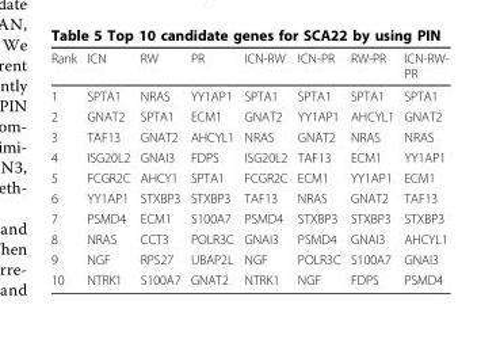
<table><thead><tr><td>Rank</td><td>ICN</td><td>RW</td><td>PR</td><td>ICN-RW</td><td>ICN-PR</td><td>RW-PR</td><td>ICN-RW- PR</td></tr></thead><tbody><tr><td>1</td><td>SPTA1</td><td>NRAS</td><td>YY1AP1</td><td>SPTA1</td><td>SPTA1</td><td>SPTA1</td><td>SPTA1</td></tr><tr><td>2</td><td>GNAT2</td><td>SPTA1</td><td>ECM1</td><td>GNAT2</td><td>YY1AP1</td><td>AHCYL1</td><td>GNAT2</td></tr><tr><td>3</td><td>TAF13</td><td>GNAT2</td><td>AHCYL1</td><td>NRAS</td><td>GNAT2</td><td>NRAS</td><td>NRAS</td></tr><tr><td>4</td><td>ISG20L2</td><td>GNAI3</td><td>FDPS</td><td>ISG20L2</td><td>TAF13</td><td>ECM1</td><td>YY1AP1</td></tr><tr><td>5</td><td>FCGR2C</td><td>AHCY1</td><td>SPTA1</td><td>FCGR2C</td><td>ECM1</td><td>YY1AP1</td><td>ECM1</td></tr><tr><td>6</td><td>YY1AP1</td><td>STXBP3</td><td>STXBP3</td><td>TAF13</td><td>NRAS</td><td>GNAT2</td><td>TAF13</td></tr><tr><td>7</td><td>PSMD4</td><td>ECM1</td><td>S100A7</td><td>PSMD4</td><td>STXBP3</td><td>STXBP3</td><td>STXBP3</td></tr><tr><td>8</td><td>NRAS</td><td>CCT3</td><td>POLR3C</td><td>GNAI3</td><td>PSMD4</td><td>GNAI3</td><td>AHCYL1</td></tr><tr><td>9</td><td>NGF</td><td>RPS27</td><td>UBAP2L</td><td>NGF</td><td>POLR3C</td><td>S100A7</td><td>GNAI3</td></tr><tr><td>10</td><td>NTRK1</td><td>S100A7</td><td>GNAT2</td><td>NTRK1</td><td>NGF</td><td>FDPS</td><td>PSMD4</td></tr></tbody></table>